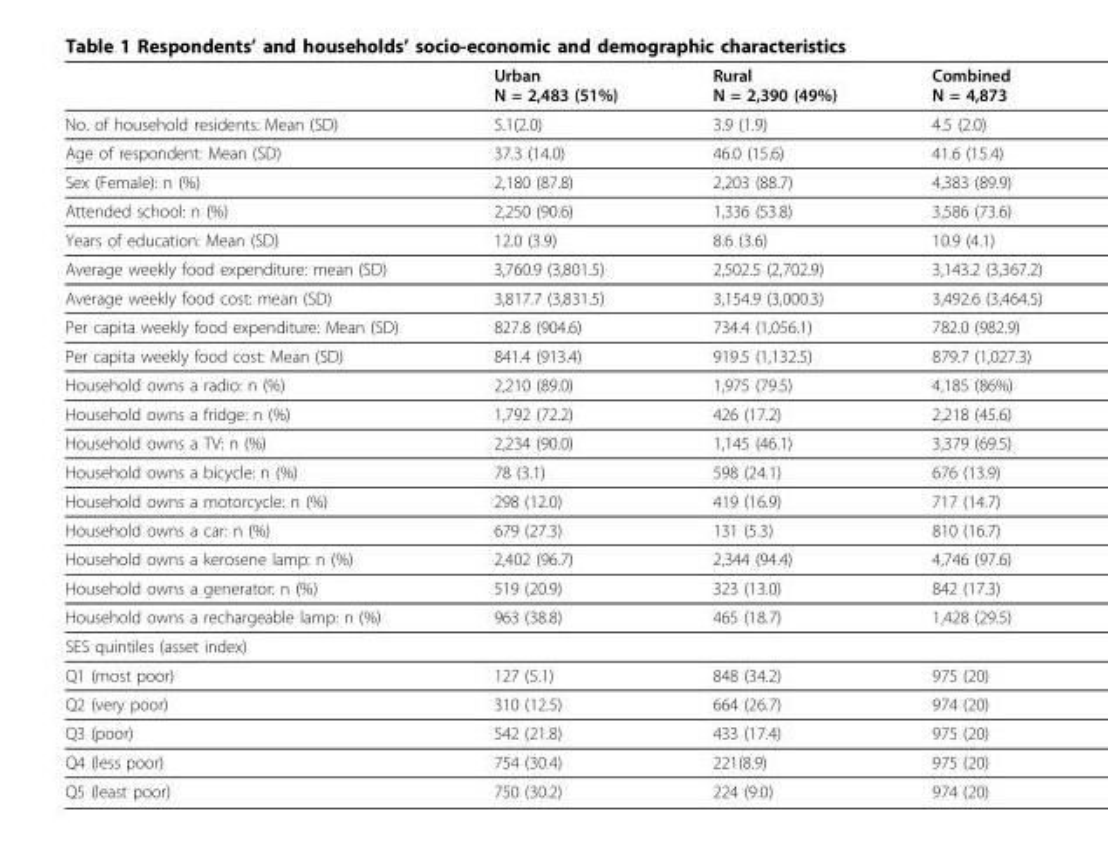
<table><thead><tr><td></td><td>Urban N = 2,483 (51%)</td><td>Rural N = 2,390 (49%)</td><td>Combined N = 4,873</td></tr></thead><tbody><tr><td>No. of household residents: Mean (SD)</td><td>5.1(2.0)</td><td>3.9 (1.9)</td><td>4.5 (2.0)</td></tr><tr><td>Age of respondent: Mean (SD)</td><td>37.3 (14.0)</td><td>46.0 (15.6)</td><td>41.6 (15.4)</td></tr><tr><td>Sex (Female): n (%)</td><td>2,180 (87.8)</td><td>2,203 (88.7)</td><td>4,383 (89.9)</td></tr><tr><td>Attended school: n (%)</td><td>2,250 (90.6)</td><td>1,336 (53.8)</td><td>3,586 (73.6)</td></tr><tr><td>Years of education: Mean (SD)</td><td>12.0 (3.9)</td><td>8.6 (3.6)</td><td>10.9 (4.1)</td></tr><tr><td>Average weekly food expenditure: mean (SD)</td><td>3,760.9 (3,801.5)</td><td>2,502.5 (2,702.9)</td><td>3,143.2 (3,367.2)</td></tr><tr><td>Average weekly food cost: mean (SD)</td><td>3,817.7 (3,831.5)</td><td>3,154.9 (3,000.3)</td><td>3,492.6 (3,464.5)</td></tr><tr><td>Per capita weekly food expenditure: Mean (SD)</td><td>827.8 (904.6)</td><td>734.4 (1,056.1)</td><td>782.0 (982.9)</td></tr><tr><td>Per capita weekly food cost: Mean (SD)</td><td>841.4 (913.4)</td><td>919.5 (1,132.5)</td><td>879.7 (1,027.3)</td></tr><tr><td>Household owns a radio: n (%)</td><td>2,210 (89.0)</td><td>1,975 (79.5)</td><td>4,185 (86%)</td></tr><tr><td>Household owns a fridge: n (%)</td><td>1,792 (72.2)</td><td>426 (17.2)</td><td>2,218 (45.6)</td></tr><tr><td>Household owns a TV: n (%)</td><td>2,234 (90.0)</td><td>1,145 (46.1)</td><td>3,379 (69.5)</td></tr><tr><td>Household owns a bicycle: n (%)</td><td>78 (3.1)</td><td>598 (24.1)</td><td>676 (13.9)</td></tr><tr><td>Household owns a motorcycle: n (%)</td><td>298 (12.0)</td><td>419 (16.9)</td><td>717 (14.7)</td></tr><tr><td>Household owns a car: n (%)</td><td>679 (27.3)</td><td>131 (5.3)</td><td>810 (16.7)</td></tr><tr><td>Household owns a kerosene lamp: n (%)</td><td>2,402 (96.7)</td><td>2,344 (94.4)</td><td>4,746 (97.6)</td></tr><tr><td>Household owns a generator: n (%)</td><td>519 (20.9)</td><td>323 (13.0)</td><td>842 (17.3)</td></tr><tr><td>Household owns a rechargeable lamp: n (%)</td><td>963 (38.8)</td><td>465 (18.7)</td><td>1,428 (29.5)</td></tr><tr><td colspan="4">SES quintiles (asset index)</td></tr><tr><td>Q1 (most poor)</td><td>127 (5.1)</td><td>848 (34.2)</td><td>975 (20)</td></tr><tr><td>Q2 (very poor)</td><td>310 (12.5)</td><td>664 (26.7)</td><td>974 (20)</td></tr><tr><td>Q3 (poor)</td><td>542 (21.8)</td><td>433 (17.4)</td><td>975 (20)</td></tr><tr><td>Q4 (less poor)</td><td>754 (30.4)</td><td>221(8.9)</td><td>975 (20)</td></tr><tr><td>Q5 (least poor)</td><td>750 (30.2)</td><td>224 (9.0)</td><td>974 (20)</td></tr></tbody></table>